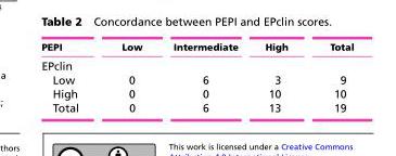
<table><thead><tr><td>PEPI</td><td>Low</td><td>Intermediate</td><td>High</td><td>Total</td></tr></thead><tbody><tr><td colspan="5">EPclin</td></tr><tr><td>Low</td><td>0</td><td>6</td><td>3</td><td>9</td></tr><tr><td>High</td><td>0</td><td>0</td><td>10</td><td>10</td></tr><tr><td>Total</td><td>0</td><td>6</td><td>13</td><td>19</td></tr></tbody></table>